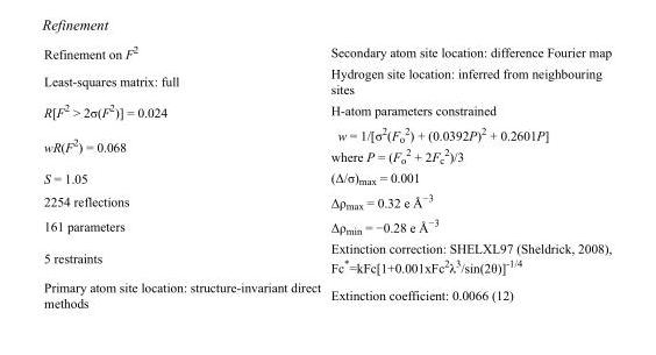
<table><tbody><tr><td>Refinement on F<sup>2</sup></td><td>Secondary atom site location: difference Fourier map</td></tr><tr><td>Least-squares matrix: full</td><td>Hydrogen site location: inferred from neighbouring sites</td></tr><tr><td>R[F<sup>2</sup> &gt; 2σ(F<sup>2</sup>)] = 0.024</td><td>H-atom parameters constrained</td></tr><tr><td>wR(F<sup>2</sup>) = 0.068</td><td>w = 1/[σ<sup>2</sup>(F<sub>o</sub> <sup>2</sup>) + (0.0392P)<sup>2</sup> + 0.2601P] where P = (F<sub>o</sub> <sup>2</sup> + 2F<sub>c</sub> <sup>2</sup>)/3</td></tr><tr><td>S = 1.05</td><td>(Δ/σ)<sub>max</sub> = 0.001</td></tr><tr><td>2254 reflections</td><td>Δρ<sub>max</sub> = 0.32 e Å<sup>−3</sup></td></tr><tr><td>161 parameters</td><td>Δρ<sub>min</sub> = −0.28 e Å<sup>−3</sup></td></tr><tr><td>5 restraints</td><td>Extinction correction: SHELXL97 (Sheldrick, 2008), Fc*=kFc[1+0.001xFc<sup>2</sup>λ<sup>3</sup>/sin(2θ)]<sup>-1/4</sup></td></tr><tr><td>Primary atom site location: structure-invariant direct methods</td><td>Extinction coefficient: 0.0066 (12)</td></tr></tbody></table>